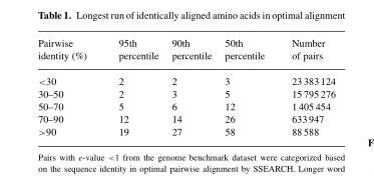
<table><thead><tr><td>Pairwise identity (%)</td><td>95th percentile</td><td>90th percentile</td><td>50th percentile</td><td>Number of pairs</td></tr></thead><tbody><tr><td>&lt;30</td><td>2</td><td>2</td><td>3</td><td>23 383 124</td></tr><tr><td>30–50</td><td>2</td><td>3</td><td>5</td><td>15 795 276</td></tr><tr><td>50–70</td><td>5</td><td>6</td><td>12</td><td>1 405 454</td></tr><tr><td>70–90</td><td>12</td><td>14</td><td>26</td><td>633 947</td></tr><tr><td>&gt;90</td><td>19</td><td>27</td><td>58</td><td>88 588</td></tr></tbody></table>